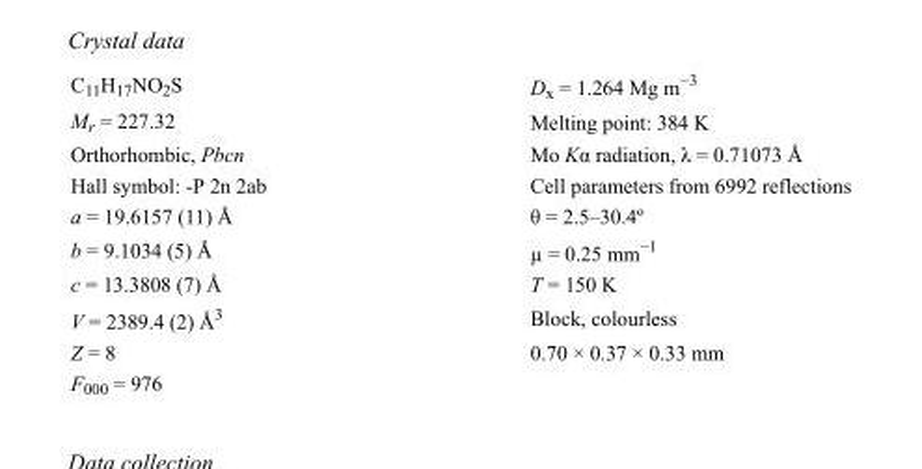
<table><tbody><tr><td>C<sub>11</sub>H<sub>17</sub>NO<sub>2</sub>S</td><td>D<sub>x</sub> = 1.264 Mg m<sup>−3</sup></td></tr><tr><td>M<sub>r</sub> = 227.32</td><td>Melting point: 384 K</td></tr><tr><td>Orthorhombic, Pbcn</td><td>Mo Kα radiation, λ = 0.71073 Å</td></tr><tr><td>Hall symbol: -P 2n 2ab</td><td>Cell parameters from 6992 reflections</td></tr><tr><td>a = 19.6157 (11) Å</td><td>θ = 2.5–30.4º</td></tr><tr><td>b = 9.1034 (5) Å</td><td>µ = 0.25 mm<sup>−1</sup></td></tr><tr><td>c = 13.3808 (7) Å</td><td>T = 150 K</td></tr><tr><td>V = 2389.4 (2) Å<sup>3</sup></td><td>Block, colourless</td></tr><tr><td>Z = 8</td><td>0.70 × 0.37 × 0.33 mm</td></tr><tr><td>F000 = 976</td><td></td></tr></tbody></table>